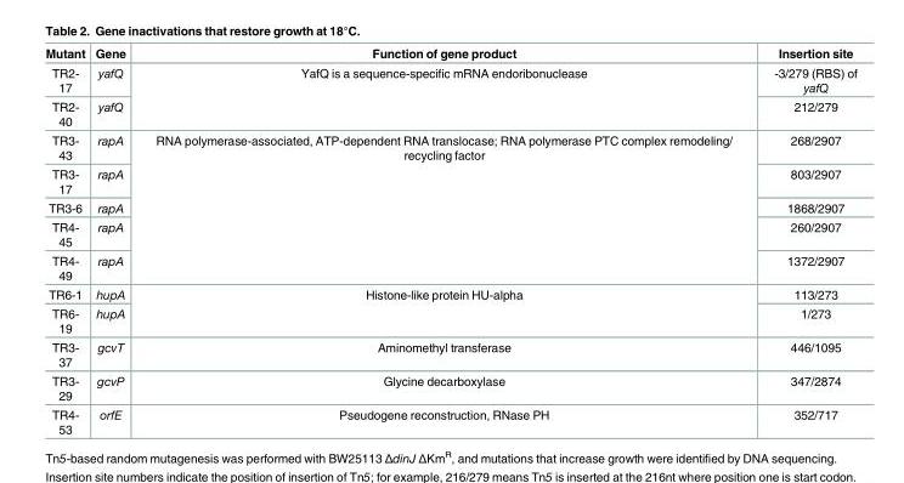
<table><thead><tr><td>Mutant</td><td>Gene</td><td>Function of gene product</td><td>Insertion site</td></tr></thead><tbody><tr><td>TR2- 17</td><td>yafQ</td><td rowspan="2">YafQ is a sequence-specific mRNA endoribonuclease</td><td>-3/279 (RBS) of yafQ</td></tr><tr><td>TR2- 40</td><td>yafQ</td><td>212/279</td></tr><tr><td>TR3- 43</td><td>rapA</td><td rowspan="5">RNA polymerase-associated, ATP-dependent RNA translocase; RNA polymerase PTC complex remodeling/ recycling factor</td><td>268/2907</td></tr><tr><td>TR3- 17</td><td>rapA</td><td>803/2907</td></tr><tr><td>TR3-6</td><td>rapA</td><td>1868/2907</td></tr><tr><td>TR4- 45</td><td>rapA</td><td>260/2907</td></tr><tr><td>TR4- 49</td><td>rapA</td><td>1372/2907</td></tr><tr><td>TR6-1</td><td>hupA</td><td rowspan="2">Histone-like protein HU-alpha</td><td>113/273</td></tr><tr><td>TR6- 19</td><td>hupA</td><td>1/273</td></tr><tr><td>TR3- 37</td><td>gcvT</td><td>Aminomethyl transferase</td><td>446/1095</td></tr><tr><td>TR3- 29</td><td>gcvP</td><td>Glycine decarboxylase</td><td>347/2874</td></tr><tr><td>TR4- 53</td><td>orfE</td><td>Pseudogene reconstruction, RNase PH</td><td>352/717</td></tr></tbody></table>